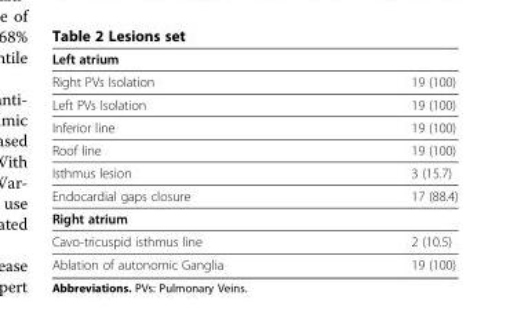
<table><thead><tr><td>Left atrium</td><td></td></tr></thead><tbody><tr><td>Right PVs Isolation</td><td>19 (100)</td></tr><tr><td>Left PVs Isolation</td><td>19 (100)</td></tr><tr><td>Inferior line</td><td>19 (100)</td></tr><tr><td>Roof line</td><td>19 (100)</td></tr><tr><td>Isthmus lesion</td><td>3 (15.7)</td></tr><tr><td>Endocardial gaps closure</td><td>17 (88.4)</td></tr><tr><td colspan="2">Right atrium</td></tr><tr><td>Cavo-tricuspid isthmus line</td><td>2 (10.5)</td></tr><tr><td>Ablation of autonomic Ganglia</td><td>19 (100)</td></tr></tbody></table>